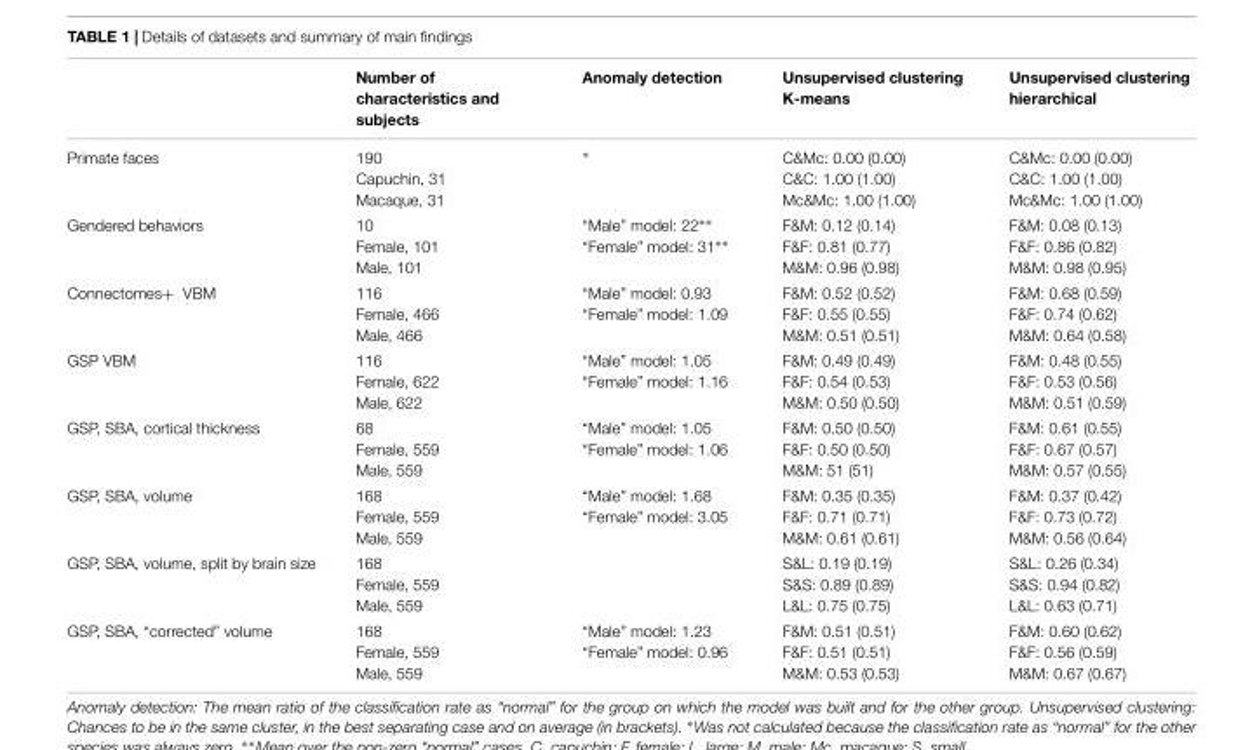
<table><thead><tr><td></td><td>Number of characteristics and subjects</td><td>Anomaly detection</td><td>Unsupervised clustering K-means</td><td>Unsupervised clustering hierarchical</td></tr></thead><tbody><tr><td>Primate faces</td><td>190 Capuchin, 31 Macaque, 31</td><td>∗</td><td>C&amp;Mc: 0.00 (0.00) C&amp;C: 1.00 (1.00) Mc&amp;Mc: 1.00 (1.00)</td><td>C&amp;Mc: 0.00 (0.00) C&amp;C: 1.00 (1.00) Mc&amp;Mc: 1.00 (1.00)</td></tr><tr><td>Gendered behaviors</td><td>10 Female, 101 Male, 101</td><td>“Male” model: 22∗∗ “Female” model: 31∗∗</td><td>F&amp;M: 0.12 (0.14) F&amp;F: 0.81 (0.77) M&amp;M: 0.96 (0.98)</td><td>F&amp;M: 0.08 (0.13) F&amp;F: 0.86 (0.82) M&amp;M: 0.98 (0.95)</td></tr><tr><td>Connectomes+ VBM</td><td>116 Female, 466 Male, 466</td><td>“Male” model: 0.93 “Female” model: 1.09</td><td>F&amp;M: 0.52 (0.52) F&amp;F: 0.55 (0.55) M&amp;M: 0.51 (0.51)</td><td>F&amp;M: 0.68 (0.59) F&amp;F: 0.74 (0.62) M&amp;M: 0.64 (0.58)</td></tr><tr><td>GSP VBM</td><td>116 Female, 622 Male, 622</td><td>“Male” model: 1.05 “Female” model: 1.16</td><td>F&amp;M: 0.49 (0.49) F&amp;F: 0.54 (0.53) M&amp;M: 0.50 (0.50)</td><td>F&amp;M: 0.48 (0.55) F&amp;F: 0.53 (0.56) M&amp;M: 0.51 (0.59)</td></tr><tr><td>GSP, SBA, cortical thickness</td><td>68 Female, 559 Male, 559</td><td>“Male” model: 1.05 “Female” model: 1.06</td><td>F&amp;M: 0.50 (0.50) F&amp;F: 0.50 (0.50) M&amp;M: 51 (51)</td><td>F&amp;M: 0.61 (0.55) F&amp;F: 0.67 (0.57) M&amp;M: 0.57 (0.55)</td></tr><tr><td>GSP, SBA, volume</td><td>168 Female, 559 Male, 559</td><td>“Male” model: 1.68 “Female” model: 3.05</td><td>F&amp;M: 0.35 (0.35) F&amp;F: 0.71 (0.71) M&amp;M: 0.61 (0.61)</td><td>F&amp;M: 0.37 (0.42) F&amp;F: 0.73 (0.72) M&amp;M: 0.56 (0.64)</td></tr><tr><td>GSP, SBA, volume, split by brain size</td><td>168 Female, 559 Male, 559</td><td></td><td>S&amp;L: 0.19 (0.19) S&amp;S: 0.89 (0.89) L&amp;L: 0.75 (0.75)</td><td>S&amp;L: 0.26 (0.34) S&amp;S: 0.94 (0.82) L&amp;L: 0.63 (0.71)</td></tr><tr><td>GSP, SBA, “corrected” volume</td><td>168 Female, 559 Male, 559</td><td>“Male” model: 1.23 “Female” model: 0.96</td><td>F&amp;M: 0.51 (0.51) F&amp;F: 0.51 (0.51) M&amp;M: 0.53 (0.53)</td><td>F&amp;M: 0.60 (0.62) F&amp;F: 0.56 (0.59) M&amp;M: 0.67 (0.67)</td></tr></tbody></table>